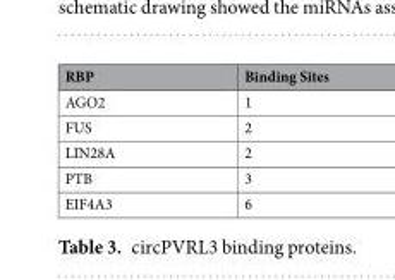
<table><thead><tr><td>RBP</td><td>Binding Sites</td></tr></thead><tbody><tr><td>AGO2</td><td>1</td></tr><tr><td>FUS</td><td>2</td></tr><tr><td>LIN28A</td><td>2</td></tr><tr><td>PTB</td><td>3</td></tr><tr><td>EIF4A3</td><td>6</td></tr></tbody></table>